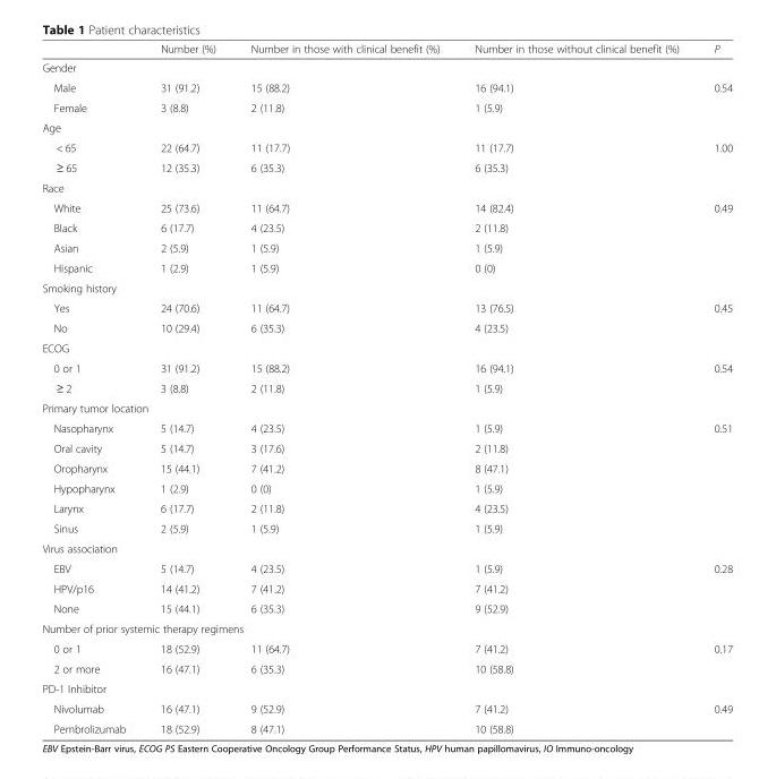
<table><thead><tr><td></td><td>Number (%)</td><td>Number in those with clinical benefit (%)</td><td>Number in those without clinical benefit (%)</td><td>P</td></tr></thead><tbody><tr><td colspan="5">Gender</td></tr><tr><td>Male</td><td>31 (91.2)</td><td>15 (88.2)</td><td>16 (94.1)</td><td>0.54</td></tr><tr><td>Female</td><td>3 (8.8)</td><td>2 (11.8)</td><td>1 (5.9)</td><td></td></tr><tr><td colspan="5">Age</td></tr><tr><td>&lt; 65</td><td>22 (64.7)</td><td>11 (17.7)</td><td>11 (17.7)</td><td>1.00</td></tr><tr><td>≥ 65</td><td>12 (35.3)</td><td>6 (35.3)</td><td>6 (35.3)</td><td></td></tr><tr><td colspan="5">Race</td></tr><tr><td>White</td><td>25 (73.6)</td><td>11 (64.7)</td><td>14 (82.4)</td><td>0.49</td></tr><tr><td>Black</td><td>6 (17.7)</td><td>4 (23.5)</td><td>2 (11.8)</td><td></td></tr><tr><td>Asian</td><td>2 (5.9)</td><td>1 (5.9)</td><td>1 (5.9)</td><td></td></tr><tr><td>Hispanic</td><td>1 (2.9)</td><td>1 (5.9)</td><td>0 (0)</td><td></td></tr><tr><td colspan="5">Smoking history</td></tr><tr><td>Yes</td><td>24 (70.6)</td><td>11 (64.7)</td><td>13 (76.5)</td><td>0.45</td></tr><tr><td>No</td><td>10 (29.4)</td><td>6 (35.3)</td><td>4 (23.5)</td><td></td></tr><tr><td colspan="5">ECOG</td></tr><tr><td>0 or 1</td><td>31 (91.2)</td><td>15 (88.2)</td><td>16 (94.1)</td><td>0.54</td></tr><tr><td>≥ 2</td><td>3 (8.8)</td><td>2 (11.8)</td><td>1 (5.9)</td><td></td></tr><tr><td colspan="5">Primary tumor location</td></tr><tr><td>Nasopharynx</td><td>5 (14.7)</td><td>4 (23.5)</td><td>1 (5.9)</td><td>0.51</td></tr><tr><td>Oral cavity</td><td>5 (14.7)</td><td>3 (17.6)</td><td>2 (11.8)</td><td></td></tr><tr><td>Oropharynx</td><td>15 (44.1)</td><td>7 (41.2)</td><td>8 (47.1)</td><td></td></tr><tr><td>Hypopharynx</td><td>1 (2.9)</td><td>0 (0)</td><td>1 (5.9)</td><td></td></tr><tr><td>Larynx</td><td>6 (17.7)</td><td>2 (11.8)</td><td>4 (23.5)</td><td></td></tr><tr><td>Sinus</td><td>2 (5.9)</td><td>1 (5.9)</td><td>1 (5.9)</td><td></td></tr><tr><td colspan="5">Virus association</td></tr><tr><td>EBV</td><td>5 (14.7)</td><td>4 (23.5)</td><td>1 (5.9)</td><td>0.28</td></tr><tr><td>HPV/p16</td><td>14 (41.2)</td><td>7 (41.2)</td><td>7 (41.2)</td><td></td></tr><tr><td>None</td><td>15 (44.1)</td><td>6 (35.3)</td><td>9 (52.9)</td><td></td></tr><tr><td colspan="5">Number of prior systemic therapy regimens</td></tr><tr><td>0 or 1</td><td>18 (52.9)</td><td>11 (64.7)</td><td>7 (41.2)</td><td>0.17</td></tr><tr><td>2 or more</td><td>16 (47.1)</td><td>6 (35.3)</td><td>10 (58.8)</td><td></td></tr><tr><td colspan="5">PD-1 Inhibitor</td></tr><tr><td>Nivolumab</td><td>16 (47.1)</td><td>9 (52.9)</td><td>7 (41.2)</td><td>0.49</td></tr><tr><td>Pembrolizumab</td><td>18 (52.9)</td><td>8 (47.1)</td><td>10 (58.8)</td><td></td></tr></tbody></table>